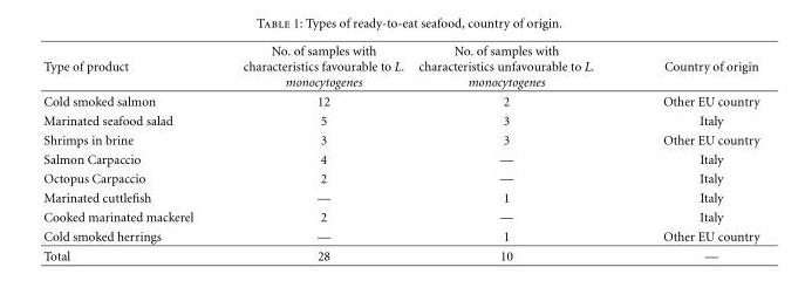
<table><thead><tr><td>Type of product</td><td>No. of samples with characteristics favourable to L. monocytogenes</td><td>No. of samples with characteristics unfavourable to L. monocytogenes</td><td>Country of origin</td></tr></thead><tbody><tr><td>Cold smoked salmon</td><td>12</td><td>2</td><td>Other EU country</td></tr><tr><td>Marinated seafood salad</td><td>5</td><td>3</td><td>Italy</td></tr><tr><td>Shrimps in brine</td><td>3</td><td>3</td><td>Other EU country</td></tr><tr><td>Salmon Carpaccio</td><td>4</td><td>—</td><td>Italy</td></tr><tr><td>Octopus Carpaccio</td><td>2</td><td>—</td><td>Italy</td></tr><tr><td>Marinated cuttlefish</td><td>—</td><td>1</td><td>Italy</td></tr><tr><td>Cooked marinated mackerel</td><td>2</td><td>—</td><td>Italy</td></tr><tr><td>Cold smoked herrings</td><td>—</td><td>1</td><td>Other EU country</td></tr><tr><td>Total</td><td>28</td><td>10</td><td>—</td></tr></tbody></table>